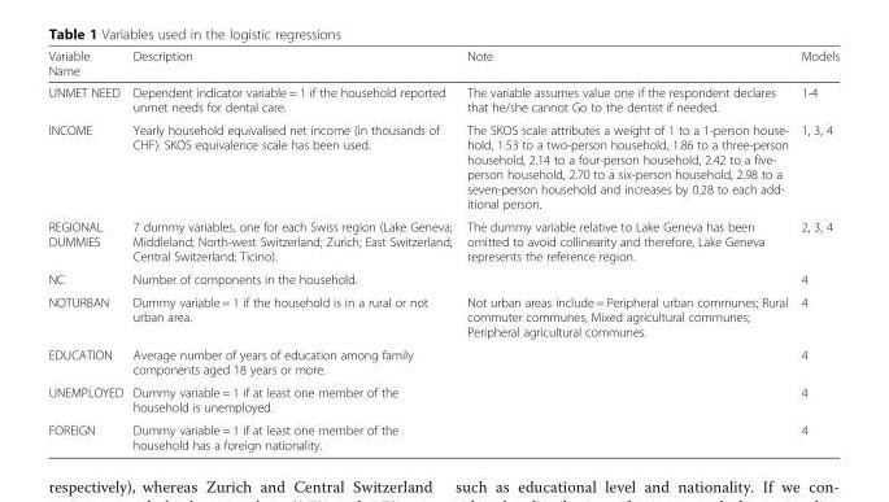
<table><thead><tr><td>Variable Name</td><td>Description</td><td>Note</td><td>Models</td></tr></thead><tbody><tr><td>UNMET NEED</td><td>Dependent indicator variable = 1 if the household reported unmet needs for dental care.</td><td>The variable assumes value one if the respondent declares that he/she cannot Go to the dentist if needed.</td><td>1-4</td></tr><tr><td>INCOME</td><td>Yearly household equivalised net income (in thousands of CHF). SKOS equivalence scale has been used.</td><td>The SKOS scale attributes a weight of 1 to a 1-person house- hold, 1.53 to a two-person household, 1.86 to a three-person household, 2.14 to a four-person household, 2.42 to a five- person household, 2.70 to a six-person household, 2.98 to a seven-person household and increases by 0.28 to each add- itional person.</td><td>1, 3, 4</td></tr><tr><td>REGIONAL DUMMIES</td><td>7 dummy variables, one for each Swiss region (Lake Geneva; Middleland; North-west Switzerland; Zurich; East Switzerland; Central Switzerland; Ticino).</td><td>The dummy variable relative to Lake Geneva has been omitted to avoid collinearity and therefore, Lake Geneva represents the reference region.</td><td>2, 3, 4</td></tr><tr><td>NC</td><td>Number of components in the household.</td><td></td><td>4</td></tr><tr><td>NOTURBAN</td><td>Dummy variable = 1 if the household is in a rural or not urban area.</td><td>Not urban areas include = Peripheral urban communes; Rural commuter communes, Mixed agricultural communes; Peripheral agricultural communes.</td><td>4</td></tr><tr><td>EDUCATION</td><td>Average number of years of education among family components aged 18 years or more.</td><td></td><td>4</td></tr><tr><td>UNEMPLOYED</td><td>Dummy variable = 1 if at least one member of the household is unemployed.</td><td></td><td>4</td></tr><tr><td>FOREIGN</td><td>Dummy variable = 1 if at least one member of the household has a foreign nationality.</td><td></td><td>4</td></tr></tbody></table>